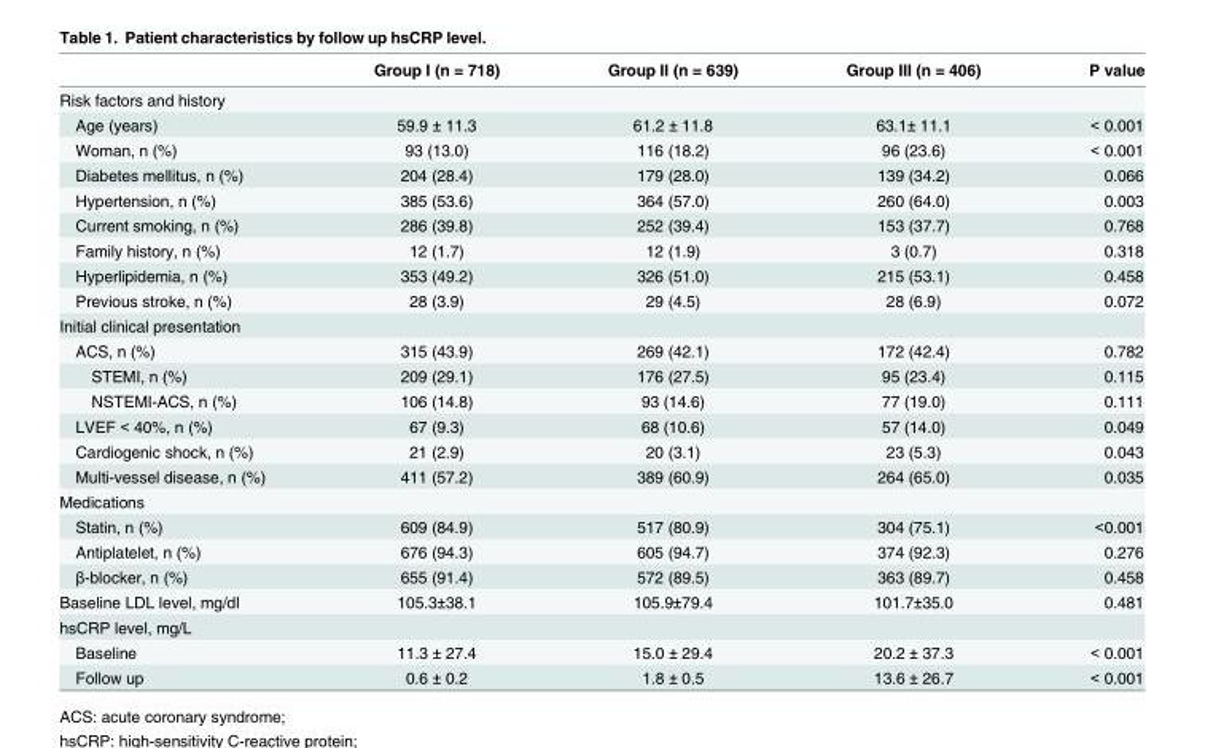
<table><thead><tr><td></td><td>Group I (n = 718)</td><td>Group II (n = 639)</td><td>Group III (n = 406)</td><td>P value</td></tr></thead><tbody><tr><td colspan="5">Risk factors and history</td></tr><tr><td>Age (years)</td><td>59.9 ± 11.3</td><td>61.2 ± 11.8</td><td>63.1± 11.1</td><td>&lt; 0.001</td></tr><tr><td>Woman, n (%)</td><td>93 (13.0)</td><td>116 (18.2)</td><td>96 (23.6)</td><td>&lt; 0.001</td></tr><tr><td>Diabetes mellitus, n (%)</td><td>204 (28.4)</td><td>179 (28.0)</td><td>139 (34.2)</td><td>0.066</td></tr><tr><td>Hypertension, n (%)</td><td>385 (53.6)</td><td>364 (57.0)</td><td>260 (64.0)</td><td>0.003</td></tr><tr><td>Current smoking, n (%)</td><td>286 (39.8)</td><td>252 (39.4)</td><td>153 (37.7)</td><td>0.768</td></tr><tr><td>Family history, n (%)</td><td>12 (1.7)</td><td>12 (1.9)</td><td>3 (0.7)</td><td>0.318</td></tr><tr><td>Hyperlipidemia, n (%)</td><td>353 (49.2)</td><td>326 (51.0)</td><td>215 (53.1)</td><td>0.458</td></tr><tr><td>Previous stroke, n (%)</td><td>28 (3.9)</td><td>29 (4.5)</td><td>28 (6.9)</td><td>0.072</td></tr><tr><td colspan="5">Initial clinical presentation</td></tr><tr><td>ACS, n (%)</td><td>315 (43.9)</td><td>269 (42.1)</td><td>172 (42.4)</td><td>0.782</td></tr><tr><td>STEMI, n (%)</td><td>209 (29.1)</td><td>176 (27.5)</td><td>95 (23.4)</td><td>0.115</td></tr><tr><td>NSTEMI-ACS, n (%)</td><td>106 (14.8)</td><td>93 (14.6)</td><td>77 (19.0)</td><td>0.111</td></tr><tr><td>LVEF &lt; 40%, n (%)</td><td>67 (9.3)</td><td>68 (10.6)</td><td>57 (14.0)</td><td>0.049</td></tr><tr><td>Cardiogenic shock, n (%)</td><td>21 (2.9)</td><td>20 (3.1)</td><td>23 (5.3)</td><td>0.043</td></tr><tr><td>Multi-vessel disease, n (%)</td><td>411 (57.2)</td><td>389 (60.9)</td><td>264 (65.0)</td><td>0.035</td></tr><tr><td colspan="5">Medications</td></tr><tr><td>Statin, n (%)</td><td>609 (84.9)</td><td>517 (80.9)</td><td>304 (75.1)</td><td>&lt;0.001</td></tr><tr><td>Antiplatelet, n (%)</td><td>676 (94.3)</td><td>605 (94.7)</td><td>374 (92.3)</td><td>0.276</td></tr><tr><td>β-blocker, n (%)</td><td>655 (91.4)</td><td>572 (89.5)</td><td>363 (89.7)</td><td>0.458</td></tr><tr><td>Baseline LDL level, mg/dl</td><td>105.3±38.1</td><td>105.9±79.4</td><td>101.7±35.0</td><td>0.481</td></tr><tr><td colspan="5">hsCRP level, mg/L</td></tr><tr><td>Baseline</td><td>11.3 ± 27.4</td><td>15.0 ± 29.4</td><td>20.2 ± 37.3</td><td>&lt; 0.001</td></tr><tr><td>Follow up</td><td>0.6 ± 0.2</td><td>1.8 ± 0.5</td><td>13.6 ± 26.7</td><td>&lt; 0.001</td></tr></tbody></table>